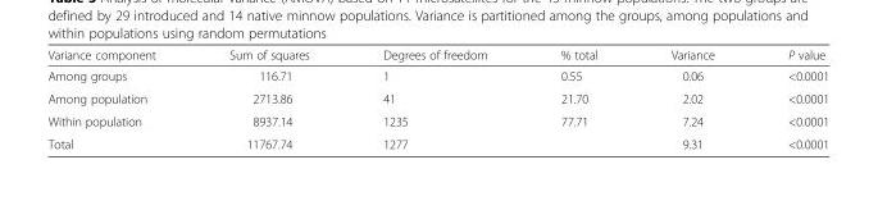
<table><thead><tr><td>Variance component</td><td>Sum of squares</td><td>Degrees of freedom</td><td>% total</td><td>Variance</td><td>P value</td></tr></thead><tbody><tr><td>Among groups</td><td>116.71</td><td>1</td><td>0.55</td><td>0.06</td><td>&lt;0.0001</td></tr><tr><td>Among population</td><td>2713.86</td><td>41</td><td>21.70</td><td>2.02</td><td>&lt;0.0001</td></tr><tr><td>Within population</td><td>8937.14</td><td>1235</td><td>77.71</td><td>7.24</td><td>&lt;0.0001</td></tr><tr><td>Total</td><td>11767.74</td><td>1277</td><td></td><td>9.31</td><td>&lt;0.0001</td></tr></tbody></table>